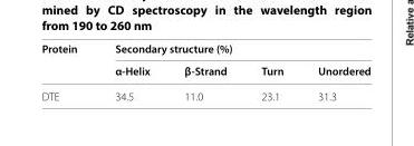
<table><thead><tr><td rowspan="2">Protein</td><td colspan="4">Secondary structure (%)</td></tr><tr><td>α‑Helix</td><td>β‑Strand</td><td>Turn</td><td>Unordered</td></tr></thead><tbody><tr><td>DTE</td><td>34.5</td><td>11.0</td><td>23.1</td><td>31.3</td></tr></tbody></table>